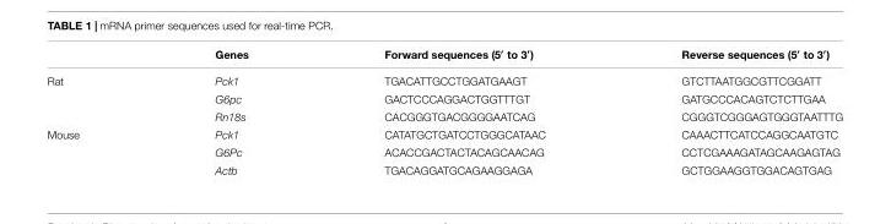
<table><thead><tr><td></td><td>Genes</td><td>Forward sequences (5′ to 3′)</td><td>Reverse sequences (5′ to 3′)</td></tr></thead><tbody><tr><td rowspan="3">Rat</td><td>Pck1</td><td>TGACATTGCCTGGATGAAGT</td><td>GTCTTAATGGCGTTCGGATT</td></tr><tr><td>G6pc</td><td>GACTCCCAGGACTGGTTTGT</td><td>GATGCCCACAGTCTCTTGAA</td></tr><tr><td>Rn18s</td><td>CACGGGTGACGGGGAATCAG</td><td>CGGGTCGGGAGTGGGTAATTTG</td></tr><tr><td rowspan="3">Mouse</td><td>Pck1</td><td>CATATGCTGATCCTGGGCATAAC</td><td>CAAACTTCATCCAGGCAATGTC</td></tr><tr><td>G6Pc</td><td>ACACCGACTACTACAGCAACAG</td><td>CCTCGAAAGATAGCAAGAGTAG</td></tr><tr><td>Actb</td><td>TGACAGGATGCAGAAGGAGA</td><td>GCTGGAAGGTGGACAGTGAG</td></tr></tbody></table>